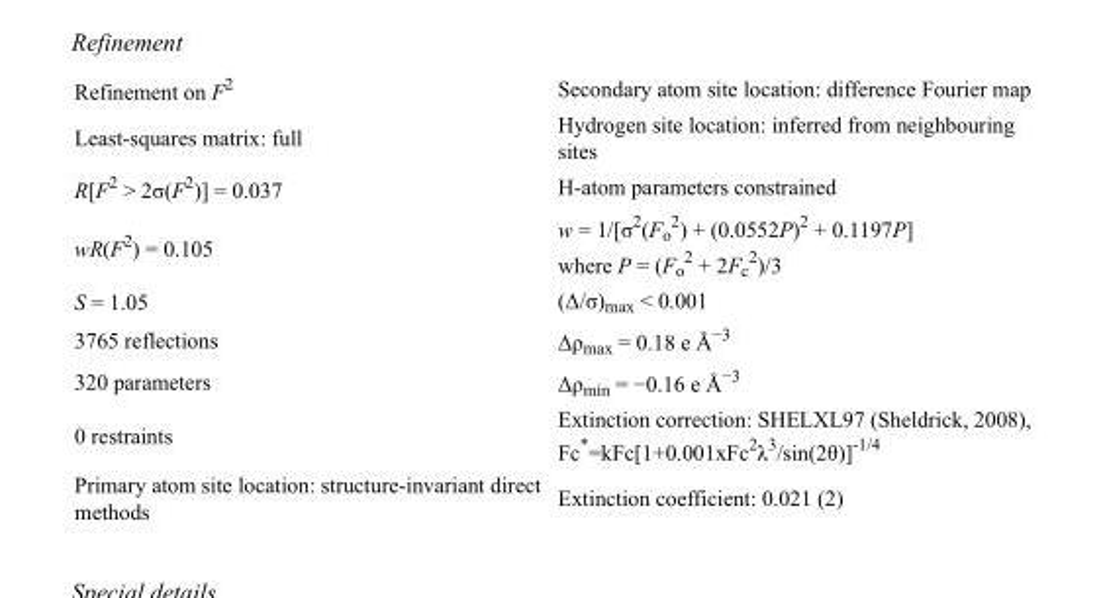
<table><tbody><tr><td>Refinement on F<sup>2</sup></td><td>Secondary atom site location: difference Fourier map</td></tr><tr><td>Least-squares matrix: full</td><td>Hydrogen site location: inferred from neighbouring sites</td></tr><tr><td>R[F<sup>2</sup> &gt; 2σ(F<sup>2</sup>)] = 0.037</td><td>H-atom parameters constrained</td></tr><tr><td>wR(F<sup>2</sup>) = 0.105</td><td>w = 1/[σ<sup>2</sup>(F<sub>o</sub> <sup>2</sup>) + (0.0552P)<sup>2</sup> + 0.1197P] where P = (F<sub>o</sub> <sup>2</sup> + 2F<sub>c</sub> <sup>2</sup>)/3</td></tr><tr><td>S = 1.05</td><td>(Δ/σ)<sub>max</sub> &lt; 0.001</td></tr><tr><td>3765 reflections</td><td>Δρ<sub>max</sub> = 0.18 e Å<sup>−3</sup></td></tr><tr><td>320 parameters</td><td>Δρ<sub>min</sub> = −0.16 e Å<sup>−3</sup></td></tr><tr><td>0 restraints</td><td>Extinction correction: SHELXL97 (Sheldrick, 2008), Fc*=kFc[1+0.001xFc<sup>2</sup>λ<sup>3</sup>/sin(2θ)]<sup>-1/4</sup></td></tr><tr><td>Primary atom site location: structure-invariant direct methods</td><td>Extinction coefficient: 0.021 (2)</td></tr></tbody></table>